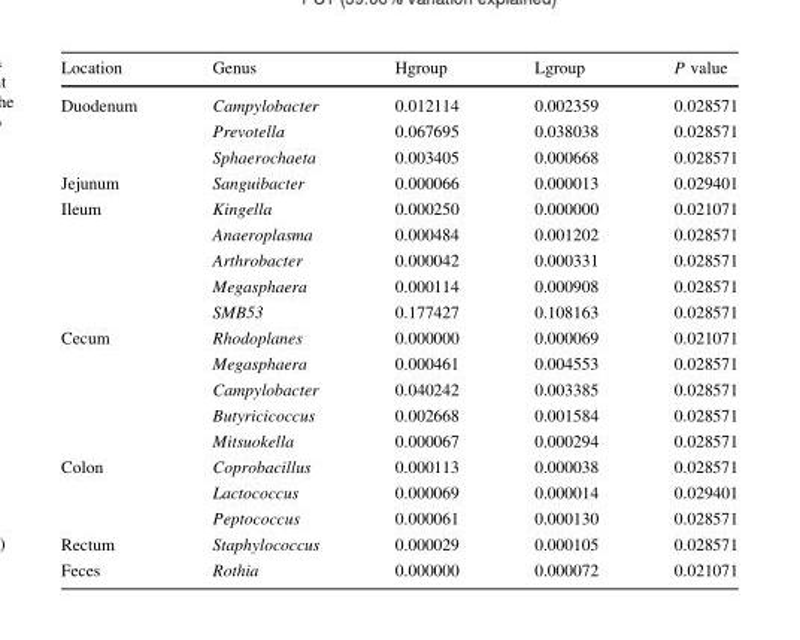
<table><thead><tr><td>Location</td><td>Genus</td><td>Hgroup</td><td>Lgroup</td><td>P value</td></tr></thead><tbody><tr><td rowspan="3">Duodenum</td><td>Campylobacter</td><td>0.012114</td><td>0.002359</td><td>0.028571</td></tr><tr><td>Prevotella</td><td>0.067695</td><td>0.038038</td><td>0.028571</td></tr><tr><td>Sphaerochaeta</td><td>0.003405</td><td>0.000668</td><td>0.028571</td></tr><tr><td>Jejunum</td><td>Sanguibacter</td><td>0.000066</td><td>0.000013</td><td>0.029401</td></tr><tr><td rowspan="5">Ileum</td><td>Kingella</td><td>0.000250</td><td>0.000000</td><td>0.021071</td></tr><tr><td>Anaeroplasma</td><td>0.000484</td><td>0.001202</td><td>0.028571</td></tr><tr><td>Arthrobacter</td><td>0.000042</td><td>0.000331</td><td>0.028571</td></tr><tr><td>Megasphaera</td><td>0.000114</td><td>0.000908</td><td>0.028571</td></tr><tr><td>SMB53</td><td>0.177427</td><td>0.108163</td><td>0.028571</td></tr><tr><td rowspan="5">Cecum</td><td>Rhodoplanes</td><td>0.000000</td><td>0.000069</td><td>0.021071</td></tr><tr><td>Megasphaera</td><td>0.000461</td><td>0.004553</td><td>0.028571</td></tr><tr><td>Campylobacter</td><td>0.040242</td><td>0.003385</td><td>0.028571</td></tr><tr><td>Butyricicoccus</td><td>0.002668</td><td>0.001584</td><td>0.028571</td></tr><tr><td>Mitsuokella</td><td>0.000067</td><td>0.000294</td><td>0.028571</td></tr><tr><td rowspan="3">Colon</td><td>Coprobacillus</td><td>0.000113</td><td>0.000038</td><td>0.028571</td></tr><tr><td>Lactococcus</td><td>0.000069</td><td>0.000014</td><td>0.029401</td></tr><tr><td>Peptococcus</td><td>0.000061</td><td>0.000130</td><td>0.028571</td></tr><tr><td>Rectum</td><td>Staphylococcus</td><td>0.000029</td><td>0.000105</td><td>0.028571</td></tr><tr><td>Feces</td><td>Rothia</td><td>0.000000</td><td>0.000072</td><td>0.021071</td></tr></tbody></table>